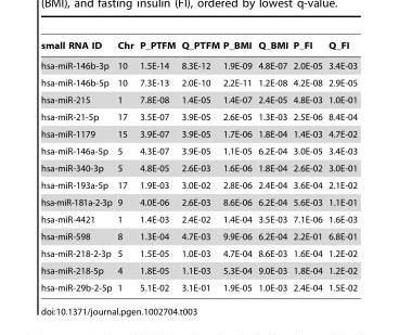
<table><thead><tr><td>small RNA ID</td><td>Chr</td><td>P_PTFM</td><td>Q_PTFM</td><td>P_BMI</td><td>Q_BMI</td><td>P_FI</td><td>Q_FI</td></tr></thead><tbody><tr><td>hsa-miR-146b-3p</td><td>10</td><td>1.5E-14</td><td>8.3E-12</td><td>1.9E-09</td><td>4.8E-07</td><td>2.0E-05</td><td>3.4E-03</td></tr><tr><td>hsa-miR-146b-5p</td><td>10</td><td>7.3E-13</td><td>2.0E-10</td><td>2.2E-11</td><td>1.2E-08</td><td>4.2E-08</td><td>2.9E-05</td></tr><tr><td>hsa-miR-215</td><td>1</td><td>7.8E-08</td><td>1.4E-05</td><td>1.4E-07</td><td>2.4E-05</td><td>4.8E-03</td><td>1.0E-01</td></tr><tr><td>hsa-miR-21-5p</td><td>17</td><td>3.5E-07</td><td>3.9E-05</td><td>2.6E-05</td><td>1.3E-03</td><td>2.5E-06</td><td>8.4E-04</td></tr><tr><td>hsa-miR-1179</td><td>15</td><td>3.9E-07</td><td>3.9E-05</td><td>1.7E-06</td><td>1.8E-04</td><td>1.4E-03</td><td>4.7E-02</td></tr><tr><td>hsa-miR-146a-5p</td><td>5</td><td>4.3E-07</td><td>3.9E-05</td><td>1.1E-05</td><td>6.2E-04</td><td>3.0E-05</td><td>3.4E-03</td></tr><tr><td>hsa-miR-340-3p</td><td>5</td><td>4.8E-05</td><td>2.6E-03</td><td>1.6E-06</td><td>1.8E-04</td><td>2.6E-02</td><td>3.0E-01</td></tr><tr><td>hsa-miR-193a-5p</td><td>17</td><td>1.9E-03</td><td>3.0E-02</td><td>2.8E-06</td><td>2.4E-04</td><td>3.6E-04</td><td>2.1E-02</td></tr><tr><td>hsa-miR-181a-2-3p</td><td>9</td><td>4.0E-06</td><td>2.6E-03</td><td>8.6E-06</td><td>6.2E-04</td><td>5.6E-03</td><td>1.1E-01</td></tr><tr><td>hsa-miR-4421</td><td>1</td><td>1.4E-03</td><td>2.4E-02</td><td>1.4E-04</td><td>3.5E-03</td><td>7.1E-06</td><td>1.6E-03</td></tr><tr><td>hsa-miR-598</td><td>8</td><td>1.3E-04</td><td>4.7E-03</td><td>9.9E-06</td><td>6.2E-04</td><td>2.2E-01</td><td>6.8E-01</td></tr><tr><td>hsa-miR-218-2-3p</td><td>5</td><td>1.5E-05</td><td>1.0E-03</td><td>4.7E-04</td><td>8.6E-03</td><td>1.6E-04</td><td>1.2E-02</td></tr><tr><td>hsa-miR-218-5p</td><td>4</td><td>1.8E-05</td><td>1.1E-03</td><td>5.3E-04</td><td>9.0E-03</td><td>1.8E-04</td><td>1.2E-02</td></tr><tr><td>hsa-miR-29b-2-5p</td><td>1</td><td>5.1E-02</td><td>3.1E-01</td><td>1.9E-05</td><td>1.0E-03</td><td>2.4E-04</td><td>1.5E-02</td></tr></tbody></table>